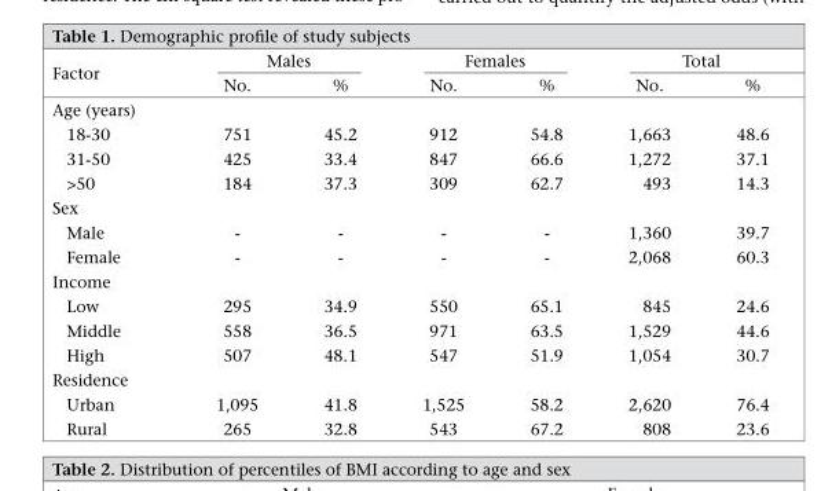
<table><thead><tr><td rowspan="2">Factor</td><td colspan="2">Males</td><td colspan="2">Females</td><td colspan="2">Total</td></tr><tr><td>No.</td><td>%</td><td>No.</td><td>%</td><td>No.</td><td>%</td></tr></thead><tbody><tr><td colspan="7">Age (years)</td></tr><tr><td>18-30</td><td>751</td><td>45.2</td><td>912</td><td>54.8</td><td>1,663</td><td>48.6</td></tr><tr><td>31-50</td><td>425</td><td>33.4</td><td>847</td><td>66.6</td><td>1,272</td><td>37.1</td></tr><tr><td>&gt;50</td><td>184</td><td>37.3</td><td>309</td><td>62.7</td><td>493</td><td>14.3</td></tr><tr><td colspan="7">Sex</td></tr><tr><td>Male</td><td>-</td><td>-</td><td>-</td><td>-</td><td>1,360</td><td>39.7</td></tr><tr><td>Female</td><td>-</td><td>-</td><td>-</td><td>-</td><td>2,068</td><td>60.3</td></tr><tr><td colspan="7">Income</td></tr><tr><td>Low</td><td>295</td><td>34.9</td><td>550</td><td>65.1</td><td>845</td><td>24.6</td></tr><tr><td>Middle</td><td>558</td><td>36.5</td><td>971</td><td>63.5</td><td>1,529</td><td>44.6</td></tr><tr><td>High</td><td>507</td><td>48.1</td><td>547</td><td>51.9</td><td>1,054</td><td>30.7</td></tr><tr><td colspan="7">Residence</td></tr><tr><td>Urban</td><td>1,095</td><td>41.8</td><td>1,525</td><td>58.2</td><td>2,620</td><td>76.4</td></tr><tr><td>Rural</td><td>265</td><td>32.8</td><td>543</td><td>67.2</td><td>808</td><td>23.6</td></tr></tbody></table>